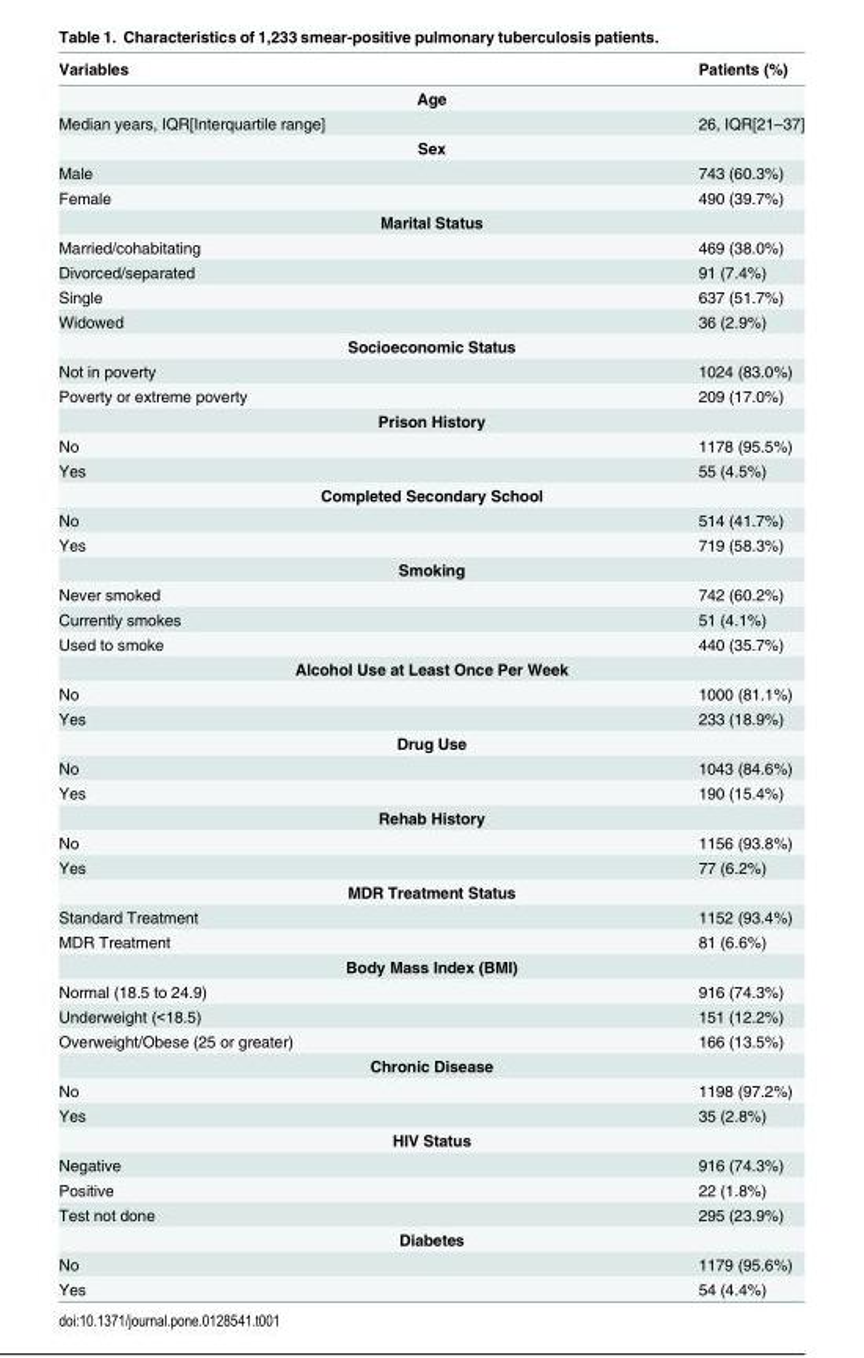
<table><thead><tr><td>Variables</td><td>Patients (%)</td></tr></thead><tbody><tr><td colspan="2">Age</td></tr><tr><td>Median years, IQR[Interquartile range]</td><td>26, IQR[21–37]</td></tr><tr><td colspan="2">Sex</td></tr><tr><td>Male</td><td>743 (60.3%)</td></tr><tr><td>Female</td><td>490 (39.7%)</td></tr><tr><td colspan="2">Marital Status</td></tr><tr><td>Married/cohabitating</td><td>469 (38.0%)</td></tr><tr><td>Divorced/separated</td><td>91 (7.4%)</td></tr><tr><td>Single</td><td>637 (51.7%)</td></tr><tr><td>Widowed</td><td>36 (2.9%)</td></tr><tr><td colspan="2">Socioeconomic Status</td></tr><tr><td>Not in poverty</td><td>1024 (83.0%)</td></tr><tr><td>Poverty or extreme poverty</td><td>209 (17.0%)</td></tr><tr><td colspan="2">Prison History</td></tr><tr><td>No</td><td>1178 (95.5%)</td></tr><tr><td>Yes</td><td>55 (4.5%)</td></tr><tr><td colspan="2">Completed Secondary School</td></tr><tr><td>No</td><td>514 (41.7%)</td></tr><tr><td>Yes</td><td>719 (58.3%)</td></tr><tr><td colspan="2">Smoking</td></tr><tr><td>Never smoked</td><td>742 (60.2%)</td></tr><tr><td>Currently smokes</td><td>51 (4.1%)</td></tr><tr><td>Used to smoke</td><td>440 (35.7%)</td></tr><tr><td colspan="2">Alcohol Use at Least Once Per Week</td></tr><tr><td>No</td><td>1000 (81.1%)</td></tr><tr><td>Yes</td><td>233 (18.9%)</td></tr><tr><td colspan="2">Drug Use</td></tr><tr><td>No</td><td>1043 (84.6%)</td></tr><tr><td>Yes</td><td>190 (15.4%)</td></tr><tr><td colspan="2">Rehab History</td></tr><tr><td>No</td><td>1156 (93.8%)</td></tr><tr><td>Yes</td><td>77 (6.2%)</td></tr><tr><td colspan="2">MDR Treatment Status</td></tr><tr><td>Standard Treatment</td><td>1152 (93.4%)</td></tr><tr><td>MDR Treatment</td><td>81 (6.6%)</td></tr><tr><td colspan="2">Body Mass Index (BMI)</td></tr><tr><td>Normal (18.5 to 24.9)</td><td>916 (74.3%)</td></tr><tr><td>Underweight (&lt;18.5)</td><td>151 (12.2%)</td></tr><tr><td>Overweight/Obese (25 or greater)</td><td>166 (13.5%)</td></tr><tr><td colspan="2">Chronic Disease</td></tr><tr><td>No</td><td>1198 (97.2%)</td></tr><tr><td>Yes</td><td>35 (2.8%)</td></tr><tr><td colspan="2">HIV Status</td></tr><tr><td>Negative</td><td>916 (74.3%)</td></tr><tr><td>Positive</td><td>22 (1.8%)</td></tr><tr><td>Test not done</td><td>295 (23.9%)</td></tr><tr><td colspan="2">Diabetes</td></tr><tr><td>No</td><td>1179 (95.6%)</td></tr><tr><td>Yes</td><td>54 (4.4%)</td></tr></tbody></table>